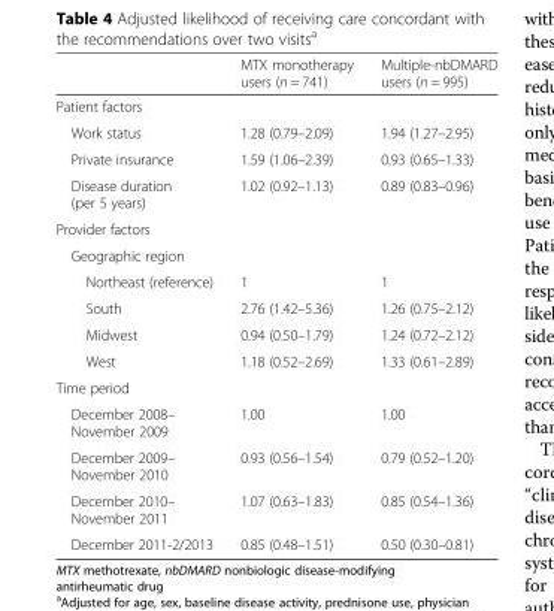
<table><thead><tr><td></td><td>MTX monotherapy users (n = 741)</td><td>Multiple-nbDMARD users (n = 995)</td></tr></thead><tbody><tr><td colspan="3">Patient factors</td></tr><tr><td>Work status</td><td>1.28 (0.79–2.09)</td><td>1.94 (1.27–2.95)</td></tr><tr><td>Private insurance</td><td>1.59 (1.06–2.39)</td><td>0.93 (0.65–1.33)</td></tr><tr><td>Disease duration (per 5 years)</td><td>1.02 (0.92–1.13)</td><td>0.89 (0.83–0.96)</td></tr><tr><td colspan="3">Provider factors</td></tr><tr><td colspan="3">Geographic region</td></tr><tr><td>Northeast (reference)</td><td>1</td><td>1</td></tr><tr><td>South</td><td>2.76 (1.42–5.36)</td><td>1.26 (0.75–2.12)</td></tr><tr><td>Midwest</td><td>0.94 (0.50–1.79)</td><td>1.24 (0.72–2.12)</td></tr><tr><td>West</td><td>1.18 (0.52–2.69)</td><td>1.33 (0.61–2.89)</td></tr><tr><td colspan="3">Time period</td></tr><tr><td>December 2008– November 2009</td><td>1.00</td><td>1.00</td></tr><tr><td>December 2009– November 2010</td><td>0.93 (0.56–1.54)</td><td>0.79 (0.52–1.20)</td></tr><tr><td>December 2010– November 2011</td><td>1.07 (0.63–1.83)</td><td>0.85 (0.54–1.36)</td></tr><tr><td>December 2011-2/2013</td><td>0.85 (0.48–1.51)</td><td>0.50 (0.30–0.81)</td></tr></tbody></table>